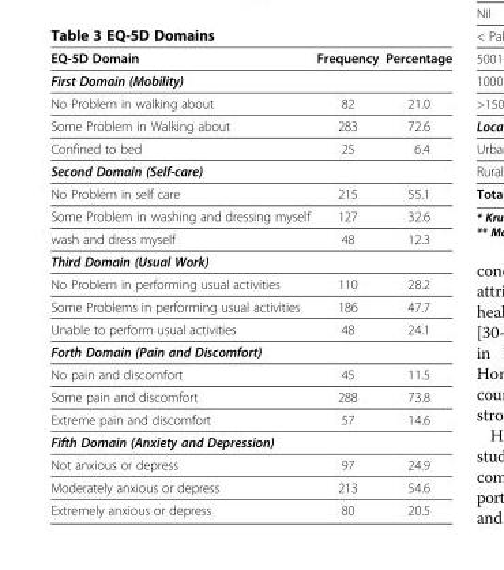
<table><thead><tr><td>EQ-5D Domain</td><td>Frequency</td><td>Percentage</td></tr></thead><tbody><tr><td colspan="3">First Domain (Mobility)</td></tr><tr><td>No Problem in walking about</td><td>82</td><td>21.0</td></tr><tr><td>Some Problem in Walking about</td><td>283</td><td>72.6</td></tr><tr><td>Confined to bed</td><td>25</td><td>6.4</td></tr><tr><td colspan="3">Second Domain (Self-care)</td></tr><tr><td>No Problem in self care</td><td>215</td><td>55.1</td></tr><tr><td>Some Problem in washing and dressing myself</td><td>127</td><td>32.6</td></tr><tr><td>wash and dress myself</td><td>48</td><td>12.3</td></tr><tr><td colspan="3">Third Domain (Usual Work)</td></tr><tr><td>No Problem in performing usual activities</td><td>110</td><td>28.2</td></tr><tr><td>Some Problems in performing usual activities</td><td>186</td><td>47.7</td></tr><tr><td>Unable to perform usual activities</td><td>48</td><td>24.1</td></tr><tr><td colspan="3">Forth Domain (Pain and Discomfort)</td></tr><tr><td>No pain and discomfort</td><td>45</td><td>11.5</td></tr><tr><td>Some pain and discomfort</td><td>288</td><td>73.8</td></tr><tr><td>Extreme pain and discomfort</td><td>57</td><td>14.6</td></tr><tr><td colspan="3">Fifth Domain (Anxiety and Depression)</td></tr><tr><td>Not anxious or depress</td><td>97</td><td>24.9</td></tr><tr><td>Moderately anxious or depress</td><td>213</td><td>54.6</td></tr><tr><td>Extremely anxious or depress</td><td>80</td><td>20.5</td></tr></tbody></table>